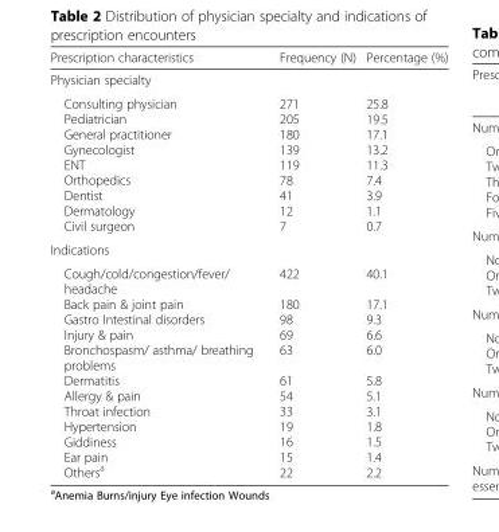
<table><thead><tr><td>Prescription characteristics</td><td>Frequency (N)</td><td>Percentage (%)</td></tr></thead><tbody><tr><td colspan="3">Physician specialty</td></tr><tr><td>Consulting physician Pediatrician General practitioner Gynecologist ENT Orthopedics Dentist Dermatology Civil surgeon</td><td>271 205 180 139 119 78 41 12 7</td><td>25.8 19.5 17.1 13.2 11.3 7.4 3.9 1.1 0.7</td></tr><tr><td colspan="3">Indications</td></tr><tr><td>Cough/cold/congestion/fever/ headache Back pain &amp; joint pain Gastro Intestinal disorders Injury &amp; pain Bronchospasm/ asthma/ breathing problems Dermatitis Allergy &amp; pain Throat infection Hypertension Giddiness Ear pain Others<sup>a</sup></td><td>422 180 98 69 63 61 54 33 19 16 15 22</td><td>40.1 17.1 9.3 6.6 6.0 5.8 5.1 3.1 1.8 1.5 1.4 2.2</td></tr></tbody></table>